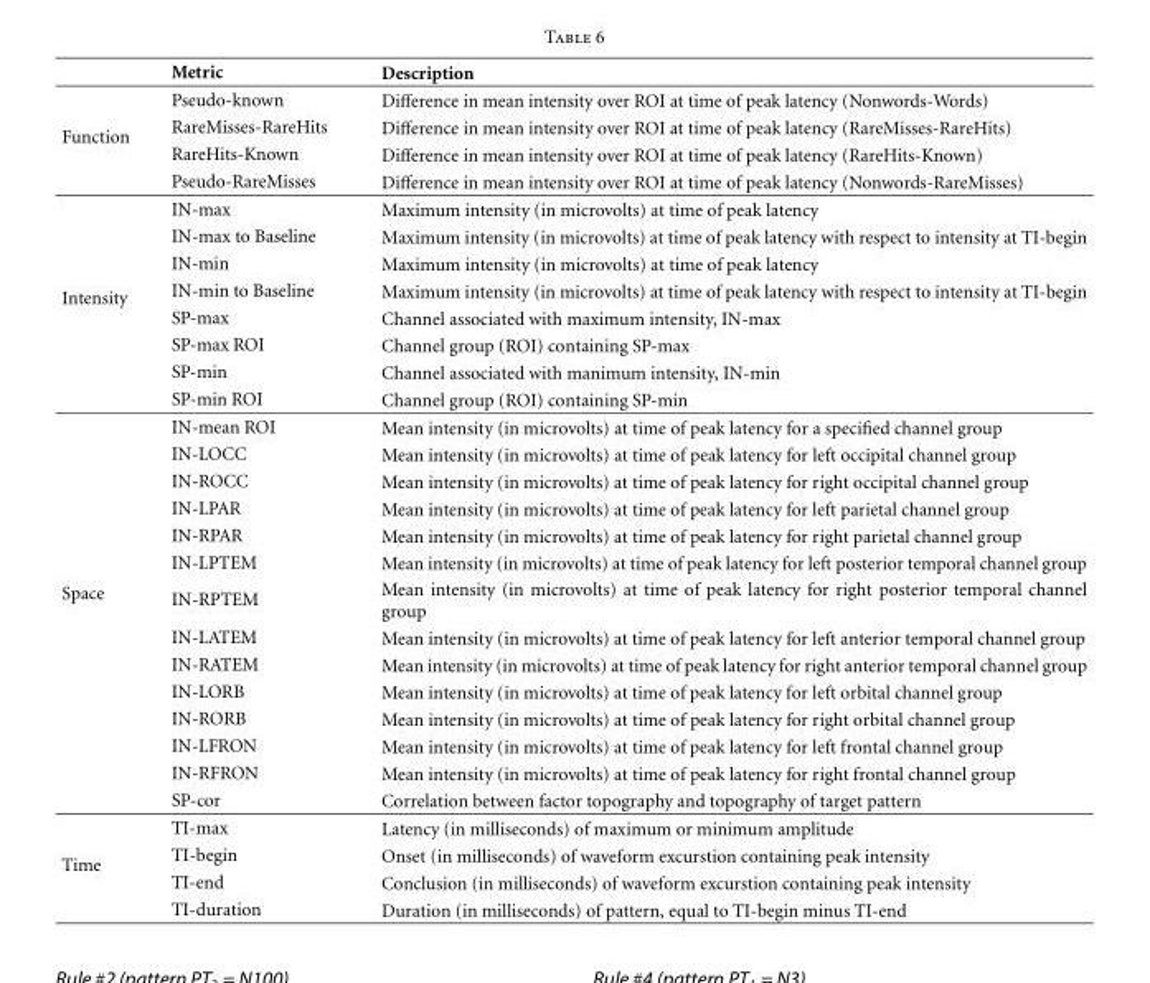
<table><thead><tr><td></td><td>Metric</td><td>Description</td></tr></thead><tbody><tr><td rowspan="4">Function</td><td>Pseudo-known</td><td>Difference in mean intensity over ROI at time of peak latency (Nonwords-Words)</td></tr><tr><td>RareMisses-RareHits</td><td>Difference in mean intensity over ROI at time of peak latency (RareMisses-RareHits)</td></tr><tr><td>RareHits-Known</td><td>Difference in mean intensity over ROI at time of peak latency (RareHits-Known)</td></tr><tr><td>Pseudo-RareMisses</td><td>Difference in mean intensity over ROI at time of peak latency (Nonwords-RareMisses)</td></tr><tr><td rowspan="8">Intensity</td><td>IN-max</td><td>Maximum intensity (in microvolts) at time of peak latency</td></tr><tr><td>IN-max to Baseline</td><td>Maximum intensity (in microvolts) at time of peak latency with respect to intensity at TI-begin</td></tr><tr><td>IN-min</td><td>Maximum intensity (in microvolts) at time of peak latency</td></tr><tr><td>IN-min to Baseline</td><td>Maximum intensity (in microvolts) at time of peak latency with respect to intensity at TI-begin</td></tr><tr><td>SP-max</td><td>Channel associated with maximum intensity, IN-max</td></tr><tr><td>SP-max ROI</td><td>Channel group (ROI) containing SP-max</td></tr><tr><td>SP-min</td><td>Channel associated with manimum intensity, IN-min</td></tr><tr><td>SP-min ROI</td><td>Channel group (ROI) containing SP-min</td></tr><tr><td rowspan="14">Space</td><td>IN-mean ROI</td><td>Mean intensity (in microvolts) at time of peak latency for a specified channel group</td></tr><tr><td>IN-LOCC</td><td>Mean intensity (in microvolts) at time of peak latency for left occipital channel group</td></tr><tr><td>IN-ROCC</td><td>Mean intensity (in microvolts) at time of peak latency for right occipital channel group</td></tr><tr><td>IN-LPAR</td><td>Mean intensity (in microvolts) at time of peak latency for left parietal channel group</td></tr><tr><td>IN-RPAR</td><td>Mean intensity (in microvolts) at time of peak latency for right parietal channel group</td></tr><tr><td>IN-LPTEM</td><td>Mean intensity (in microvolts) at time of peak latency for left posterior temporal channel group</td></tr><tr><td>IN-RPTEM</td><td>Mean intensity (in microvolts) at time of peak latency for right posterior temporal channel group</td></tr><tr><td>IN-LATEM</td><td>Mean intensity (in microvolts) at time of peak latency for left anterior temporal channel group</td></tr><tr><td>IN-RATEM</td><td>Mean intensity (in microvolts) at time of peak latency for right anterior temporal channel group</td></tr><tr><td>IN-LORB</td><td>Mean intensity (in microvolts) at time of peak latency for left orbital channel group</td></tr><tr><td>IN-RORB</td><td>Mean intensity (in microvolts) at time of peak latency for right orbital channel group</td></tr><tr><td>IN-LFRON</td><td>Mean intensity (in microvolts) at time of peak latency for left frontal channel group</td></tr><tr><td>IN-RFRON</td><td>Mean intensity (in microvolts) at time of peak latency for right frontal channel group</td></tr><tr><td>SP-cor</td><td>Correlation between factor topography and topography of target pattern</td></tr><tr><td rowspan="4">Time</td><td>TI-max</td><td>Latency (in milliseconds) of maximum or minimum amplitude</td></tr><tr><td>TI-begin</td><td>Onset (in milliseconds) of waveform excurstion containing peak intensity</td></tr><tr><td>TI-end</td><td>Conclusion (in milliseconds) of waveform excurstion containing peak intensity</td></tr><tr><td>TI-duration</td><td>Duration (in milliseconds) of pattern, equal to TI-begin minus TI-end</td></tr></tbody></table>